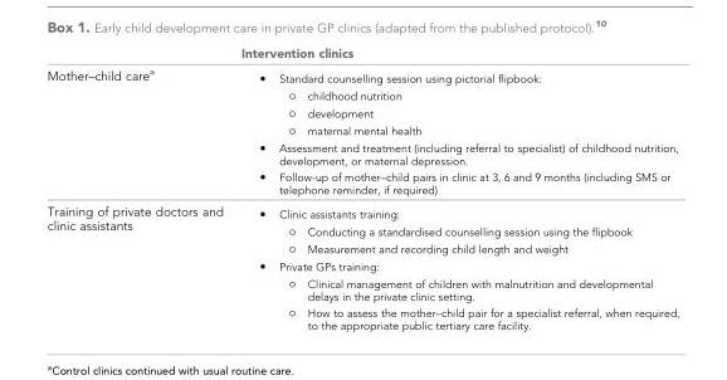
<table><thead><tr><td></td><td>Intervention clinics</td></tr></thead><tbody><tr><td>Mother–child care<sup>a</sup></td><td>. Standard counselling session using pictorial flipbook: � childhood nutrition � development � maternal mental health . Assessment and treatment (including referral to specialist) of childhood nutrition, development, or maternal depression. . Follow-up of mother–child pairs in clinic at 3, 6 and 9 months (including SMS or telephone reminder, if required)</td></tr><tr><td>Training of private doctors and clinic assistants</td><td>. Clinic assistants training: � Conducting a standardised counselling session using the flipbook � Measurement and recording child length and weight . Private GPs training: � Clinical management of children with malnutrition and developmental delays in the private clinic setting. � How to assess the mother–child pair for a specialist referral, when required, to the appropriate public tertiary care facility.</td></tr></tbody></table>